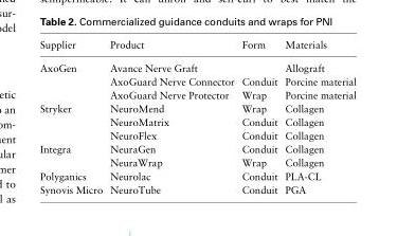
<table><thead><tr><td>Supplier</td><td>Product</td><td>Form</td><td>Materials</td></tr></thead><tbody><tr><td rowspan="3">AxoGen</td><td>Avance Nerve Graft</td><td></td><td>Allograft</td></tr><tr><td>AxoGuard Nerve Connector</td><td>Conduit</td><td>Porcine material</td></tr><tr><td>AxoGuard Nerve Protector</td><td>Wrap</td><td>Porcine material</td></tr><tr><td rowspan="3">Stryker</td><td>NeuroMend</td><td>Wrap</td><td>Collagen</td></tr><tr><td>NeuroMatrix</td><td>Conduit</td><td>Collagen</td></tr><tr><td>NeuroFlex</td><td>Conduit</td><td>Collagen</td></tr><tr><td rowspan="2">Integra</td><td>NeuraGen</td><td>Conduit</td><td>Collagen</td></tr><tr><td>NeuraWrap</td><td>Wrap</td><td>Collagen</td></tr><tr><td>Polyganics</td><td>Neurolac</td><td>Conduit</td><td>PLA-CL</td></tr><tr><td>Synovis Micro</td><td>NeuroTube</td><td>Conduit</td><td>PGA</td></tr></tbody></table>